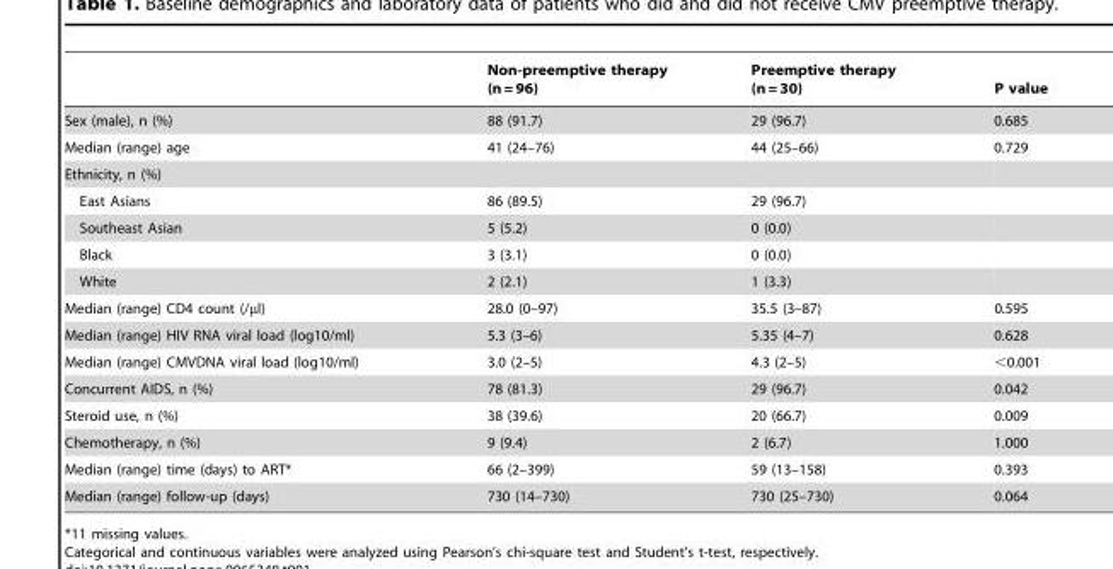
<table><thead><tr><td></td><td>Non-preemptive therapy (n = 96)</td><td>Preemptive therapy (n = 30)</td><td>P value</td></tr></thead><tbody><tr><td>Sex (male), n (%)</td><td>88 (91.7)</td><td>29 (96.7)</td><td>0.685</td></tr><tr><td>Median (range) age</td><td>41 (24–76)</td><td>44 (25–66)</td><td>0.729</td></tr><tr><td colspan="4">Ethnicity, n (%)</td></tr><tr><td>East Asians</td><td>86 (89.5)</td><td>29 (96.7)</td><td></td></tr><tr><td>Southeast Asian</td><td>5 (5.2)</td><td>0 (0.0)</td><td></td></tr><tr><td>Black</td><td>3 (3.1)</td><td>0 (0.0)</td><td></td></tr><tr><td>White</td><td>2 (2.1)</td><td>1 (3.3)</td><td></td></tr><tr><td>Median (range) CD4 count (/μl)</td><td>28.0 (0–97)</td><td>35.5 (3–87)</td><td>0.595</td></tr><tr><td>Median (range) HIV RNA viral load (log10/ml)</td><td>5.3 (3–6)</td><td>5.35 (4–7)</td><td>0.628</td></tr><tr><td>Median (range) CMVDNA viral load (log10/ml)</td><td>3.0 (2–5)</td><td>4.3 (2–5)</td><td>&lt;0.001</td></tr><tr><td>Concurrent AIDS, n (%)</td><td>78 (81.3)</td><td>29 (96.7)</td><td>0.042</td></tr><tr><td>Steroid use, n (%)</td><td>38 (39.6)</td><td>20 (66.7)</td><td>0.009</td></tr><tr><td>Chemotherapy, n (%)</td><td>9 (9.4)</td><td>2 (6.7)</td><td>1.000</td></tr><tr><td>Median (range) time (days) to ART*</td><td>66 (2–399)</td><td>59 (13–158)</td><td>0.393</td></tr><tr><td>Median (range) follow-up (days)</td><td>730 (14–730)</td><td>730 (25–730)</td><td>0.064</td></tr></tbody></table>